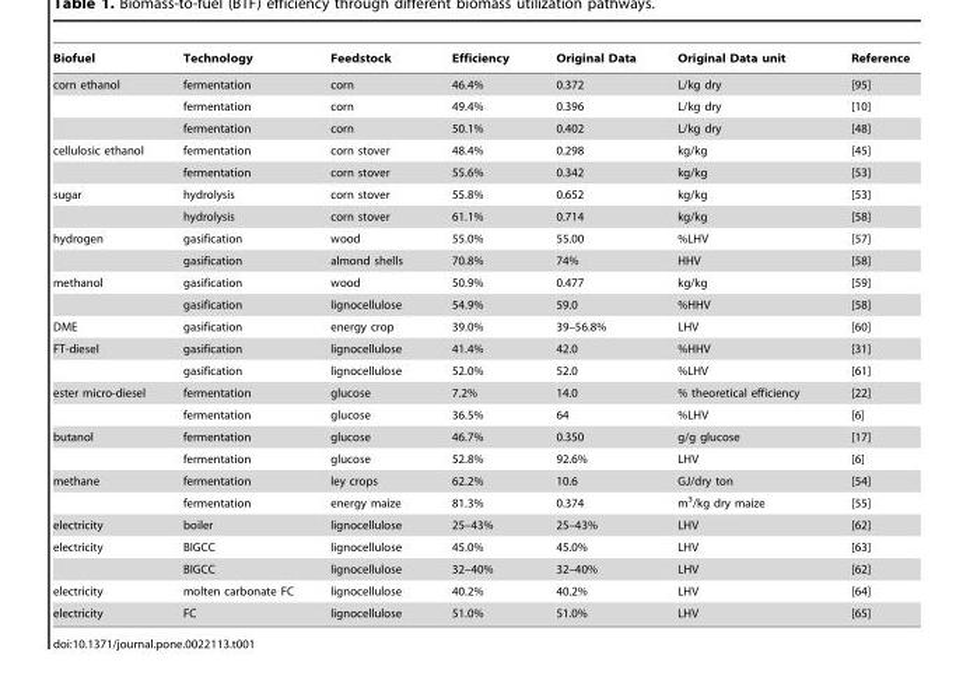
<table><thead><tr><td>Biofuel</td><td>Technology</td><td>Feedstock</td><td>Efficiency</td><td>Original Data</td><td>Original Data unit</td><td>Reference</td></tr></thead><tbody><tr><td rowspan="3">corn ethanol</td><td>fermentation</td><td>corn</td><td>46.4%</td><td>0.372</td><td>L/kg dry</td><td>[95]</td></tr><tr><td>fermentation</td><td>corn</td><td>49.4%</td><td>0.396</td><td>L/kg dry</td><td>[10]</td></tr><tr><td>fermentation</td><td>corn</td><td>50.1%</td><td>0.402</td><td>L/kg dry</td><td>[48]</td></tr><tr><td rowspan="2">cellulosic ethanol</td><td>fermentation</td><td>corn stover</td><td>48.4%</td><td>0.298</td><td>kg/kg</td><td>[45]</td></tr><tr><td>fermentation</td><td>corn stover</td><td>55.6%</td><td>0.342</td><td>kg/kg</td><td>[53]</td></tr><tr><td rowspan="2">sugar</td><td>hydrolysis</td><td>corn stover</td><td>55.8%</td><td>0.652</td><td>kg/kg</td><td>[53]</td></tr><tr><td>hydrolysis</td><td>corn stover</td><td>61.1%</td><td>0.714</td><td>kg/kg</td><td>[58]</td></tr><tr><td rowspan="2">hydrogen</td><td>gasification</td><td>wood</td><td>55.0%</td><td>55.00</td><td>%LHV</td><td>[57]</td></tr><tr><td>gasification</td><td>almond shells</td><td>70.8%</td><td>74%</td><td>HHV</td><td>[58]</td></tr><tr><td rowspan="2">methanol</td><td>gasification</td><td>wood</td><td>50.9%</td><td>0.477</td><td>kg/kg</td><td>[59]</td></tr><tr><td>gasification</td><td>lignocellulose</td><td>54.9%</td><td>59.0</td><td>%HHV</td><td>[58]</td></tr><tr><td>DME</td><td>gasification</td><td>energy crop</td><td>39.0%</td><td>39–56.8%</td><td>LHV</td><td>[60]</td></tr><tr><td rowspan="2">FT-diesel</td><td>gasification</td><td>lignocellulose</td><td>41.4%</td><td>42.0</td><td>%HHV</td><td>[31]</td></tr><tr><td>gasification</td><td>lignocellulose</td><td>52.0%</td><td>52.0</td><td>%LHV</td><td>[61]</td></tr><tr><td rowspan="2">ester micro-diesel</td><td>fermentation</td><td>glucose</td><td>7.2%</td><td>14.0</td><td>% theoretical efficiency</td><td>[22]</td></tr><tr><td>fermentation</td><td>glucose</td><td>36.5%</td><td>64</td><td>%LHV</td><td>[6]</td></tr><tr><td rowspan="2">butanol</td><td>fermentation</td><td>glucose</td><td>46.7%</td><td>0.350</td><td>g/g glucose</td><td>[17]</td></tr><tr><td>fermentation</td><td>glucose</td><td>52.8%</td><td>92.6%</td><td>LHV</td><td>[6]</td></tr><tr><td rowspan="2">methane</td><td>fermentation</td><td>ley crops</td><td>62.2%</td><td>10.6</td><td>GJ/dry ton</td><td>[54]</td></tr><tr><td>fermentation</td><td>energy maize</td><td>81.3%</td><td>0.374</td><td>m<sup>3</sup>/kg dry maize</td><td>[55]</td></tr><tr><td>electricity</td><td>boiler</td><td>lignocellulose</td><td>25–43%</td><td>25–43%</td><td>LHV</td><td>[62]</td></tr><tr><td rowspan="2">electricity</td><td>BIGCC</td><td>lignocellulose</td><td>45.0%</td><td>45.0%</td><td>LHV</td><td>[63]</td></tr><tr><td>BIGCC</td><td>lignocellulose</td><td>32–40%</td><td>32–40%</td><td>LHV</td><td>[62]</td></tr><tr><td>electricity</td><td>molten carbonate FC</td><td>lignocellulose</td><td>40.2%</td><td>40.2%</td><td>LHV</td><td>[64]</td></tr><tr><td>electricity</td><td>FC</td><td>lignocellulose</td><td>51.0%</td><td>51.0%</td><td>LHV</td><td>[65]</td></tr></tbody></table>